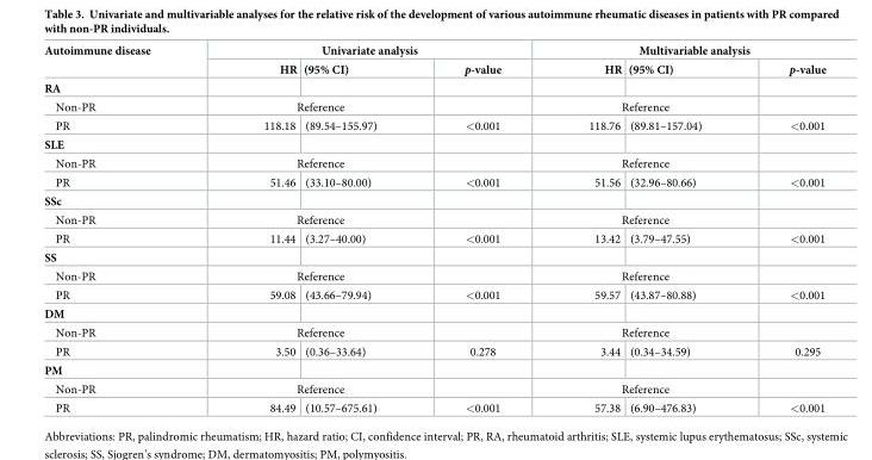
<table><thead><tr><td rowspan="2">Autoimmune disease</td><td colspan="3">Univariate analysis</td><td colspan="3">Multivariable analysis</td></tr><tr><td>HR</td><td>(95% CI)</td><td>p-value</td><td>HR</td><td>(95% CI)</td><td>p-value</td></tr></thead><tbody><tr><td colspan="7">RA</td></tr><tr><td>Non-PR</td><td colspan="2">Reference</td><td></td><td colspan="2">Reference</td><td></td></tr><tr><td>PR</td><td>118.18</td><td>(89.54–155.97)</td><td>&lt;0.001</td><td>118.76</td><td>(89.81–157.04)</td><td>&lt;0.001</td></tr><tr><td colspan="7">SLE</td></tr><tr><td>Non-PR</td><td colspan="2">Reference</td><td></td><td colspan="2">Reference</td><td></td></tr><tr><td>PR</td><td>51.46</td><td>(33.10–80.00)</td><td>&lt;0.001</td><td>51.56</td><td>(32.96–80.66)</td><td>&lt;0.001</td></tr><tr><td colspan="7">SSc</td></tr><tr><td>Non-PR</td><td colspan="2">Reference</td><td></td><td colspan="2">Reference</td><td></td></tr><tr><td>PR</td><td>11.44</td><td>(3.27–40.00)</td><td>&lt;0.001</td><td>13.42</td><td>(3.79–47.55)</td><td>&lt;0.001</td></tr><tr><td colspan="7">SS</td></tr><tr><td>Non-PR</td><td colspan="2">Reference</td><td></td><td colspan="2">Reference</td><td></td></tr><tr><td>PR</td><td>59.08</td><td>(43.66–79.94)</td><td>&lt;0.001</td><td>59.57</td><td>(43.87–80.88)</td><td>&lt;0.001</td></tr><tr><td colspan="7">DM</td></tr><tr><td>Non-PR</td><td colspan="2">Reference</td><td></td><td colspan="2">Reference</td><td></td></tr><tr><td>PR</td><td>3.50</td><td>(0.36–33.64)</td><td>0.278</td><td>3.44</td><td>(0.34–34.59)</td><td>0.295</td></tr><tr><td colspan="7">PM</td></tr><tr><td>Non-PR</td><td colspan="2">Reference</td><td></td><td colspan="2">Reference</td><td></td></tr><tr><td>PR</td><td>84.49</td><td>(10.57–675.61)</td><td>&lt;0.001</td><td>57.38</td><td>(6.90–476.83)</td><td>&lt;0.001</td></tr></tbody></table>